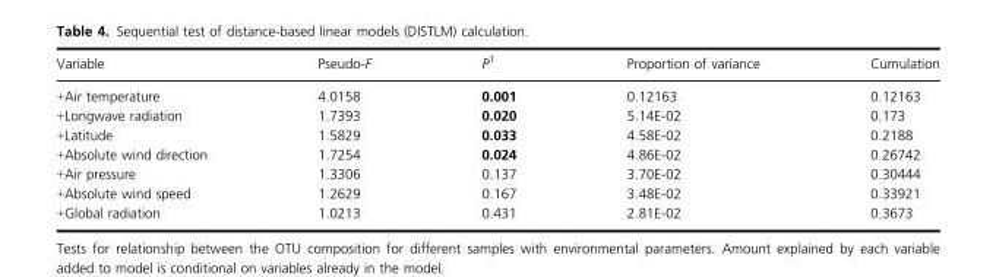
<table><thead><tr><td>Variable</td><td>Pseudo-F</td><td>P<sup>1</sup></td><td>Proportion of variance</td><td>Cumulation</td></tr></thead><tbody><tr><td>+Air temperature</td><td>4.0158</td><td>0.001</td><td>0.12163</td><td>0.12163</td></tr><tr><td>+Longwave radiation</td><td>1.7393</td><td>0.020</td><td>5.14E-02</td><td>0.173</td></tr><tr><td>+Latitude</td><td>1.5829</td><td>0.033</td><td>4.58E-02</td><td>0.2188</td></tr><tr><td>+Absolute wind direction</td><td>1.7254</td><td>0.024</td><td>4.86E-02</td><td>0.26742</td></tr><tr><td>+Air pressure</td><td>1.3306</td><td>0.137</td><td>3.70E-02</td><td>0.30444</td></tr><tr><td>+Absolute wind speed</td><td>1.2629</td><td>0.167</td><td>3.48E-02</td><td>0.33921</td></tr><tr><td>+Global radiation</td><td>1.0213</td><td>0.431</td><td>2.81E-02</td><td>0.3673</td></tr></tbody></table>